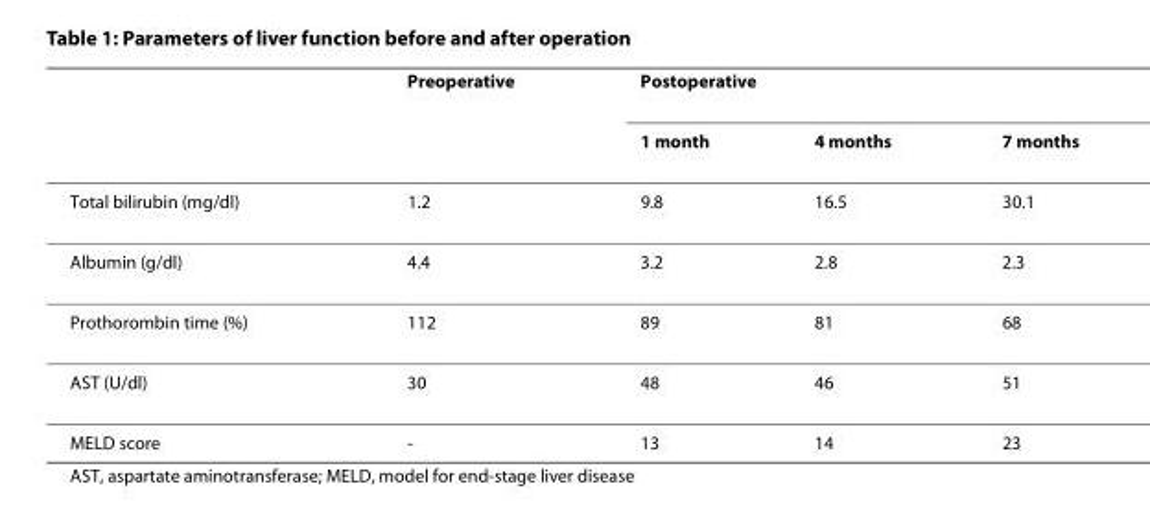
<table><thead><tr><td rowspan="2"></td><td rowspan="2">Preoperative</td><td colspan="3">Postoperative</td></tr><tr><td>1 month</td><td>4 months</td><td>7 months</td></tr></thead><tbody><tr><td>Total bilirubin (mg/dl)</td><td>1.2</td><td>9.8</td><td>16.5</td><td>30.1</td></tr><tr><td>Albumin (g/dl)</td><td>4.4</td><td>3.2</td><td>2.8</td><td>2.3</td></tr><tr><td>Prothorombin time (%)</td><td>112</td><td>89</td><td>81</td><td>68</td></tr><tr><td>AST (U/dl)</td><td>30</td><td>48</td><td>46</td><td>51</td></tr><tr><td>MELD score</td><td>-</td><td>13</td><td>14</td><td>23</td></tr></tbody></table>